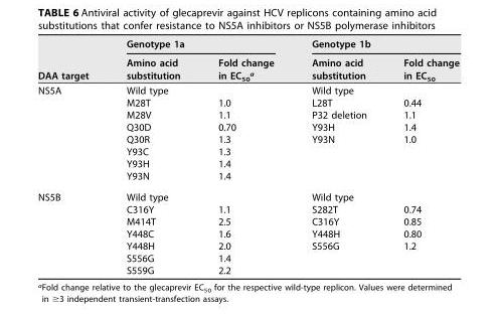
<table><thead><tr><td rowspan="2">DAA target</td><td colspan="2">Genotype 1a</td><td colspan="2">Genotype 1b</td></tr><tr><td>Amino acid substitution</td><td>Fold change in EC<sub>50</sub><sup>a</sup></td><td>Amino acid substitution</td><td>Fold change in EC<sub>50</sub></td></tr></thead><tbody><tr><td rowspan="8">NS5A</td><td>Wild type</td><td></td><td>Wild type</td><td></td></tr><tr><td>M28T</td><td>1.0</td><td>L28T</td><td>0.44</td></tr><tr><td>M28V</td><td>1.1</td><td>P32 deletion</td><td>1.1</td></tr><tr><td>Q30D</td><td>0.70</td><td>Y93H</td><td>1.4</td></tr><tr><td>Q30R</td><td>1.3</td><td>Y93N</td><td>1.0</td></tr><tr><td>Y93C</td><td>1.3</td><td></td><td></td></tr><tr><td>Y93H</td><td>1.4</td><td></td><td></td></tr><tr><td>Y93N</td><td>1.4</td><td></td><td></td></tr><tr><td rowspan="7">NS5B</td><td>Wild type</td><td></td><td>Wild type</td><td></td></tr><tr><td>C316Y</td><td>1.1</td><td>S282T</td><td>0.74</td></tr><tr><td>M414T</td><td>2.5</td><td>C316Y</td><td>0.85</td></tr><tr><td>Y448C</td><td>1.6</td><td>Y448H</td><td>0.80</td></tr><tr><td>Y448H</td><td>2.0</td><td>S556G</td><td>1.2</td></tr><tr><td>S556G</td><td>1.4</td><td></td><td></td></tr><tr><td>S559G</td><td>2.2</td><td></td><td></td></tr></tbody></table>